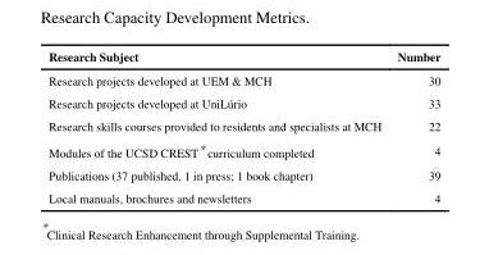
<table><thead><tr><td>Research Subject</td><td>Number</td></tr></thead><tbody><tr><td>Research projects developed at UEM &amp; MCH</td><td>30</td></tr><tr><td>Research projects developed at UniLúrio</td><td>33</td></tr><tr><td>Research skills courses provided to residents and specialists at MCH</td><td>22</td></tr><tr><td>Modules of the UCSD CREST* curriculum completed</td><td>4</td></tr><tr><td>Publications (37 published, 1 in press; 1 book chapter)</td><td>39</td></tr><tr><td>Local manuals, brochures and newsletters</td><td>4</td></tr></tbody></table>